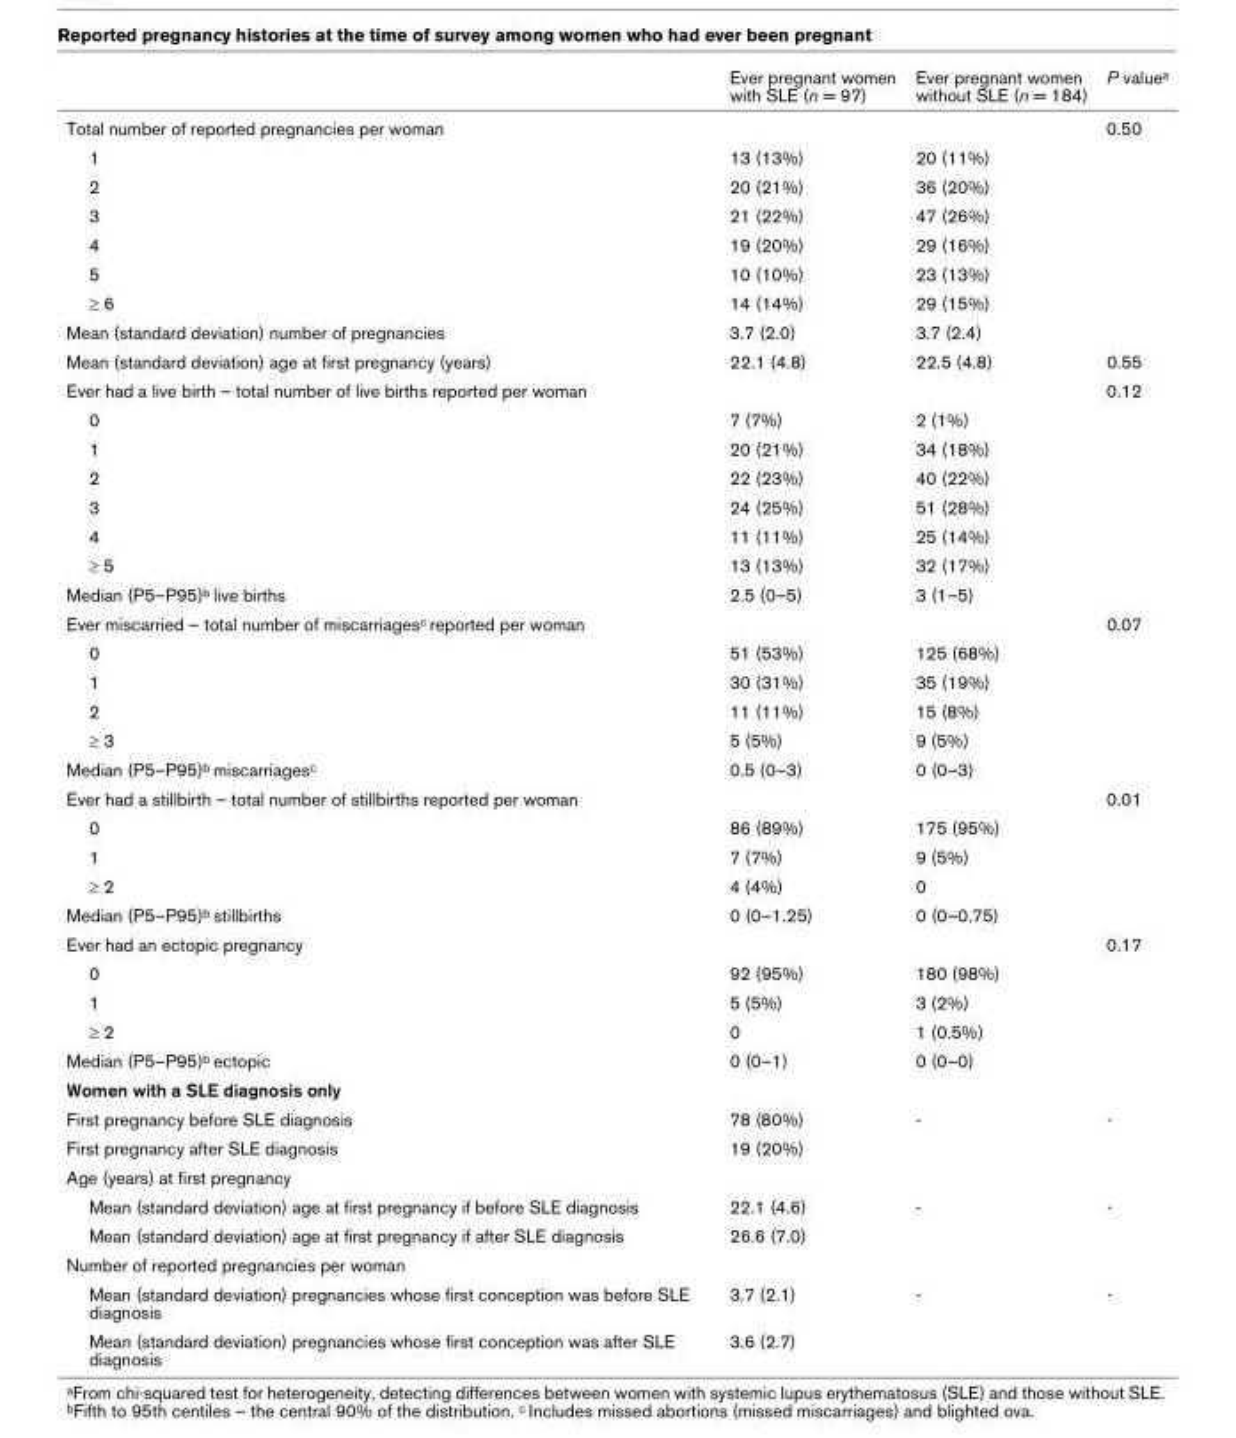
<table><thead><tr><td></td><td>Ever pregnant women with SLE (n = 97)</td><td>Ever pregnant women without SLE (n = 184)</td><td>P value<sup>a</sup></td></tr></thead><tbody><tr><td>Total number of reported pregnancies per woman</td><td></td><td></td><td>0.50</td></tr><tr><td>1</td><td>13 (13%)</td><td>20 (11%)</td><td></td></tr><tr><td>2</td><td>20 (21%)</td><td>36 (20%)</td><td></td></tr><tr><td>3</td><td>21 (22%)</td><td>47 (26%)</td><td></td></tr><tr><td>4</td><td>19 (20%)</td><td>29 (16%)</td><td></td></tr><tr><td>5</td><td>10 (10%)</td><td>23 (13%)</td><td></td></tr><tr><td>≥ 6</td><td>14 (14%)</td><td>29 (15%)</td><td></td></tr><tr><td>Mean (standard deviation) number of pregnancies</td><td>3.7 (2.0)</td><td>3.7 (2.4)</td><td></td></tr><tr><td>Mean (standard deviation) age at first pregnancy (years)</td><td>22.1 (4.8)</td><td>22.5 (4.8)</td><td>0.55</td></tr><tr><td>Ever had a live birth – total number of live births reported per woman</td><td></td><td></td><td>0.12</td></tr><tr><td>0</td><td>7 (7%)</td><td>2 (1%)</td><td></td></tr><tr><td>1</td><td>20 (21%)</td><td>34 (18%)</td><td></td></tr><tr><td>2</td><td>22 (23%)</td><td>40 (22%)</td><td></td></tr><tr><td>3</td><td>24 (25%)</td><td>51 (28%)</td><td></td></tr><tr><td>4</td><td>11 (11%)</td><td>25 (14%)</td><td></td></tr><tr><td>≥ 5</td><td>13 (13%)</td><td>32 (17%)</td><td></td></tr><tr><td>Median (P5–P95)<sup>b</sup> live births</td><td>2.5 (0–5)</td><td>3 (1–5)</td><td></td></tr><tr><td>Ever miscarried – total number of miscarriages<sup>c</sup> reported per woman</td><td></td><td></td><td>0.07</td></tr><tr><td>0</td><td>51 (53%)</td><td>125 (68%)</td><td></td></tr><tr><td>1</td><td>30 (31%)</td><td>35 (19%)</td><td></td></tr><tr><td>2</td><td>11 (11%)</td><td>15 (8%)</td><td></td></tr><tr><td>≥ 3</td><td>5 (5%)</td><td>9 (5%)</td><td></td></tr><tr><td>Median (P5–P95)<sup>b</sup> miscarriages<sup>c</sup></td><td>0.5 (0–3)</td><td>0 (0–3)</td><td></td></tr><tr><td>Ever had a stillbirth – total number of stillbirths reported per woman</td><td></td><td></td><td>0.01</td></tr><tr><td>0</td><td>86 (89%)</td><td>175 (95%)</td><td></td></tr><tr><td>1</td><td>7 (7%)</td><td>9 (5%)</td><td></td></tr><tr><td>≥ 2</td><td>4 (4%)</td><td>0</td><td></td></tr><tr><td>Median (P5–P95)<sup>b</sup> stillbirths</td><td>0 (0–1.25)</td><td>0 (0–0.75)</td><td></td></tr><tr><td>Ever had an ectopic pregnancy</td><td></td><td></td><td>0.17</td></tr><tr><td>0</td><td>92 (95%)</td><td>180 (98%)</td><td></td></tr><tr><td>1</td><td>5 (5%)</td><td>3 (2%)</td><td></td></tr><tr><td>≥ 2</td><td>0</td><td>1 (0.5%)</td><td></td></tr><tr><td>Median (P5–P95)<sup>b</sup> ectopic</td><td>0 (0–1)</td><td>0 (0–0)</td><td></td></tr><tr><td colspan="4">Women with a SLE diagnosis only</td></tr><tr><td>First pregnancy before SLE diagnosis</td><td>78 (80%)</td><td>-</td><td>-</td></tr><tr><td>First pregnancy after SLE diagnosis</td><td>19 (20%)</td><td></td><td></td></tr><tr><td colspan="4">Age (years) at first pregnancy</td></tr><tr><td>Mean (standard deviation) age at first pregnancy if before SLE diagnosis</td><td>22.1 (4.6)</td><td>-</td><td>-</td></tr><tr><td>Mean (standard deviation) age at first pregnancy if after SLE diagnosis</td><td>26.6 (7.0)</td><td></td><td></td></tr><tr><td colspan="4">Number of reported pregnancies per woman</td></tr><tr><td>Mean (standard deviation) pregnancies whose first conception was before SLE diagnosis</td><td>3.7 (2.1)</td><td>-</td><td>-</td></tr><tr><td>Mean (standard deviation) pregnancies whose first conception was after SLE diagnosis</td><td>3.6 (2.7)</td><td></td><td></td></tr></tbody></table>